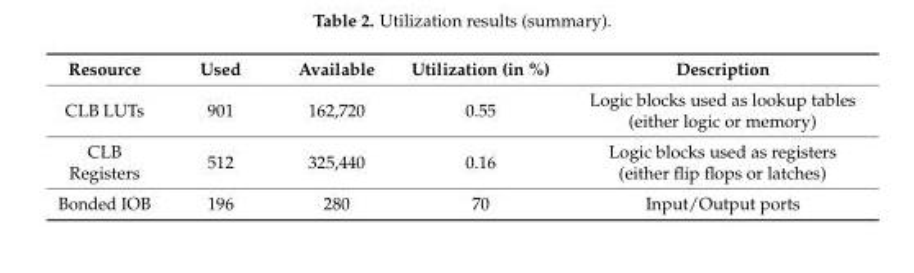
<table><thead><tr><td>Resource</td><td>Used</td><td>Available</td><td>Utilization (in %)</td><td>Description</td></tr></thead><tbody><tr><td>CLB LUTs</td><td>901</td><td>162,720</td><td>0.55</td><td>Logic blocks used as lookup tables (either logic or memory)</td></tr><tr><td>CLB Registers</td><td>512</td><td>325,440</td><td>0.16</td><td>Logic blocks used as registers (either flip flops or latches)</td></tr><tr><td>Bonded IOB</td><td>196</td><td>280</td><td>70</td><td>Input/Output ports</td></tr></tbody></table>